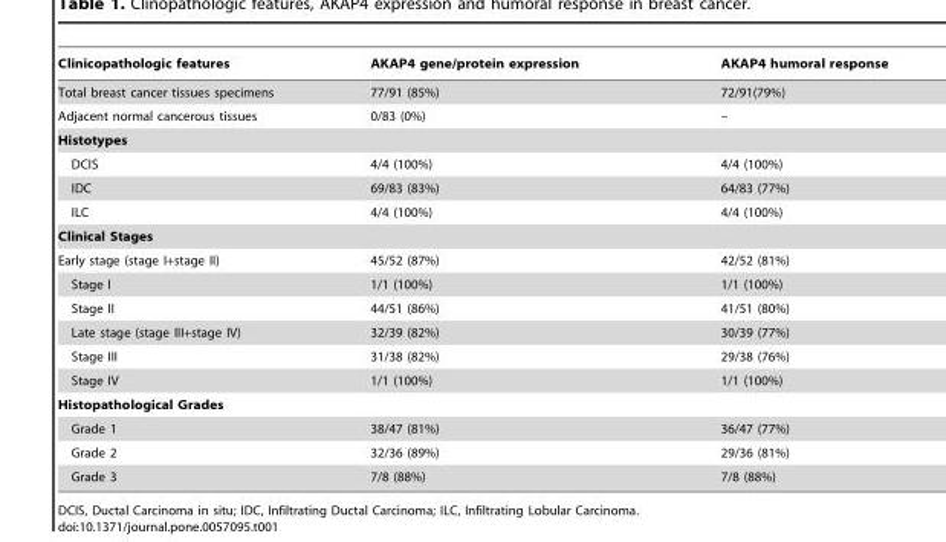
<table><thead><tr><td>Clinicopathologic features</td><td>AKAP4 gene/protein expression</td><td>AKAP4 humoral response</td></tr></thead><tbody><tr><td>Total breast cancer tissues specimens</td><td>77/91 (85%)</td><td>72/91(79%)</td></tr><tr><td>Adjacent normal cancerous tissues</td><td>0/83 (0%)</td><td>–</td></tr><tr><td colspan="3">Histotypes</td></tr><tr><td>DCIS</td><td>4/4 (100%)</td><td>4/4 (100%)</td></tr><tr><td>IDC</td><td>69/83 (83%)</td><td>64/83 (77%)</td></tr><tr><td>ILC</td><td>4/4 (100%)</td><td>4/4 (100%)</td></tr><tr><td colspan="3">Clinical Stages</td></tr><tr><td>Early stage (stage I+stage II)</td><td>45/52 (87%)</td><td>42/52 (81%)</td></tr><tr><td>Stage I</td><td>1/1 (100%)</td><td>1/1 (100%)</td></tr><tr><td>Stage II</td><td>44/51 (86%)</td><td>41/51 (80%)</td></tr><tr><td>Late stage (stage III+stage IV)</td><td>32/39 (82%)</td><td>30/39 (77%)</td></tr><tr><td>Stage III</td><td>31/38 (82%)</td><td>29/38 (76%)</td></tr><tr><td>Stage IV</td><td>1/1 (100%)</td><td>1/1 (100%)</td></tr><tr><td colspan="3">Histopathological Grades</td></tr><tr><td>Grade 1</td><td>38/47 (81%)</td><td>36/47 (77%)</td></tr><tr><td>Grade 2</td><td>32/36 (89%)</td><td>29/36 (81%)</td></tr><tr><td>Grade 3</td><td>7/8 (88%)</td><td>7/8 (88%)</td></tr></tbody></table>